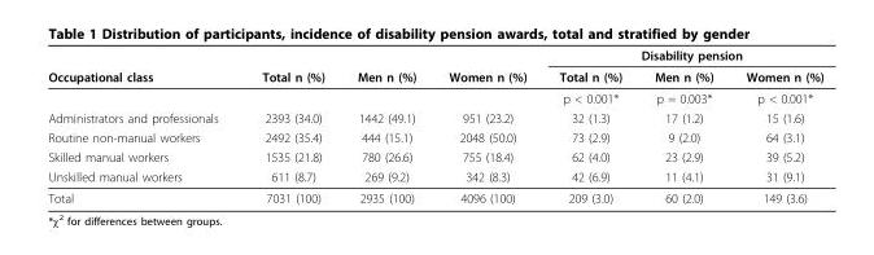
<table><thead><tr><td rowspan="2">Occupational class</td><td rowspan="2">Total n (%)</td><td rowspan="2">Men n (%)</td><td rowspan="2">Women n (%)</td><td colspan="3">Disability pension</td></tr><tr><td>Total n (%)</td><td>Men n (%)</td><td>Women n (%)</td></tr></thead><tbody><tr><td></td><td></td><td></td><td></td><td>p &lt; 0.001*</td><td>p = 0.003*</td><td>p &lt; 0.001*</td></tr><tr><td>Administrators and professionals</td><td>2393 (34.0)</td><td>1442 (49.1)</td><td>951 (23.2)</td><td>32 (1.3)</td><td>17 (1.2)</td><td>15 (1.6)</td></tr><tr><td>Routine non-manual workers</td><td>2492 (35.4)</td><td>444 (15.1)</td><td>2048 (50.0)</td><td>73 (2.9)</td><td>9 (2.0)</td><td>64 (3.1)</td></tr><tr><td>Skilled manual workers</td><td>1535 (21.8)</td><td>780 (26.6)</td><td>755 (18.4)</td><td>62 (4.0)</td><td>23 (2.9)</td><td>39 (5.2)</td></tr><tr><td>Unskilled manual workers</td><td>611 (8.7)</td><td>269 (9.2)</td><td>342 (8.3)</td><td>42 (6.9)</td><td>11 (4.1)</td><td>31 (9.1)</td></tr><tr><td>Total</td><td>7031 (100)</td><td>2935 (100)</td><td>4096 (100)</td><td>209 (3.0)</td><td>60 (2.0)</td><td>149 (3.6)</td></tr></tbody></table>